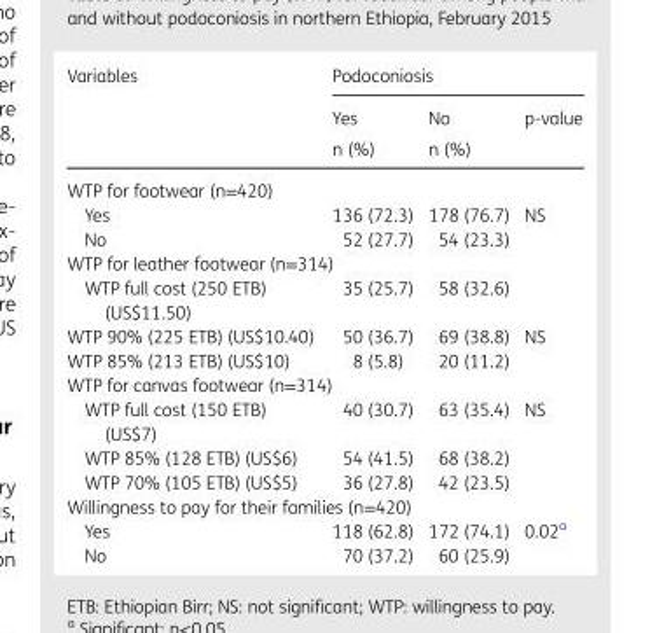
<table><thead><tr><td rowspan="3">Variables</td><td colspan="3">Podoconiosis</td></tr><tr><td rowspan="2">Yes n (%)</td><td rowspan="2">No n (%)</td><td rowspan="2">p-value</td></tr><tr></tr></thead><tbody><tr><td colspan="4">WTP for footwear (n=420)</td></tr><tr><td>Yes</td><td>136 (72.3)</td><td>178 (76.7)</td><td>NS</td></tr><tr><td>No</td><td>52 (27.7)</td><td>54 (23.3)</td><td></td></tr><tr><td colspan="4">WTP for leather footwear (n=314)</td></tr><tr><td>WTP full cost (250 ETB) (US$11.50)</td><td>35 (25.7)</td><td>58 (32.6)</td><td></td></tr><tr><td>WTP 90% (225 ETB) (US$10.40)</td><td>50 (36.7)</td><td>69 (38.8)</td><td>NS</td></tr><tr><td>WTP 85% (213 ETB) (US$10)</td><td>8 (5.8)</td><td>20 (11.2)</td><td></td></tr><tr><td colspan="4">WTP for canvas footwear (n=314)</td></tr><tr><td>WTP full cost (150 ETB) (US$7)</td><td>40 (30.7)</td><td>63 (35.4)</td><td>NS</td></tr><tr><td>WTP 85% (128 ETB) (US$6)</td><td>54 (41.5)</td><td>68 (38.2)</td><td></td></tr><tr><td>WTP 70% (105 ETB) (US$5)</td><td>36 (27.8)</td><td>42 (23.5)</td><td></td></tr><tr><td colspan="4">Willingness to pay for their families (n=420)</td></tr><tr><td>Yes</td><td>118 (62.8)</td><td>172 (74.1)</td><td>0.02<sup>a</sup></td></tr><tr><td>No</td><td>70 (37.2)</td><td>60 (25.9)</td><td></td></tr></tbody></table>